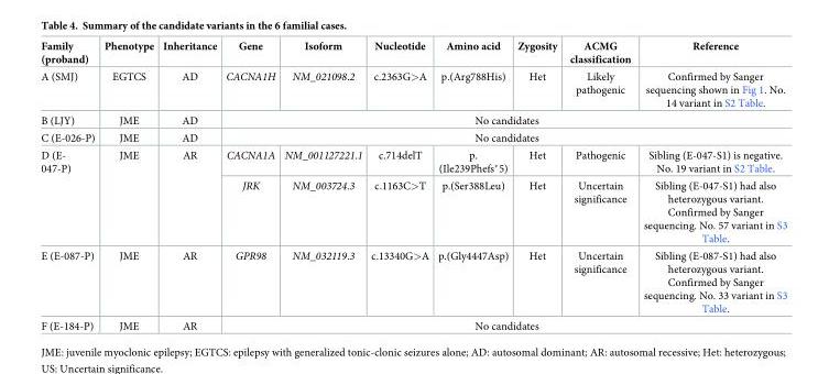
<table><thead><tr><td>Family (proband)</td><td>Phenotype</td><td>Inheritance</td><td>Gene</td><td>Isoform</td><td>Nucleotide</td><td>Amino acid</td><td>Zygosity</td><td>ACMG classification</td><td>Reference</td></tr></thead><tbody><tr><td>A (SMJ)</td><td>EGTCS</td><td>AD</td><td>CACNA1H</td><td>NM_021098.2</td><td>c.2363G&gt;A</td><td>p.(Arg788His)</td><td>Het</td><td>Likely pathogenic</td><td>Confirmed by Sanger sequencing shown in Fig 1. No. 14 variant in S2 Table.</td></tr><tr><td>B (LJY)</td><td>JME</td><td>AD</td><td colspan="7">No candidates</td></tr><tr><td>C (E-026-P)</td><td>JME</td><td>AD</td><td colspan="7">No candidates</td></tr><tr><td rowspan="2">D (E- 047-P)</td><td rowspan="2">JME</td><td rowspan="2">AR</td><td>CACNA1A</td><td>NM_001127221.1</td><td>c.714delT</td><td>p. (Ile239Phefs*5)</td><td>Het</td><td>Pathogenic</td><td>Sibling (E-047-S1) is negative. No. 19 variant in S2 Table.</td></tr><tr><td>JRK</td><td>NM_003724.3</td><td>c.1163C&gt;T</td><td>p.(Ser388Leu)</td><td>Het</td><td>Uncertain significance</td><td>Sibling (E-047-S1) had also heterozygous variant. Confirmed by Sanger sequencing. No. 57 variant in S3 Table.</td></tr><tr><td>E (E-087-P)</td><td>JME</td><td>AR</td><td>GPR98</td><td>NM_032119.3</td><td>c.13340G&gt;A</td><td>p.(Gly4447Asp)</td><td>Het</td><td>Uncertain significance</td><td>Sibling (E-087-S1) had also heterozygous variant. Confirmed by Sanger sequencing. No. 33 variant in S3 Table.</td></tr><tr><td>F (E-184-P)</td><td>JME</td><td>AR</td><td colspan="7">No candidates</td></tr></tbody></table>